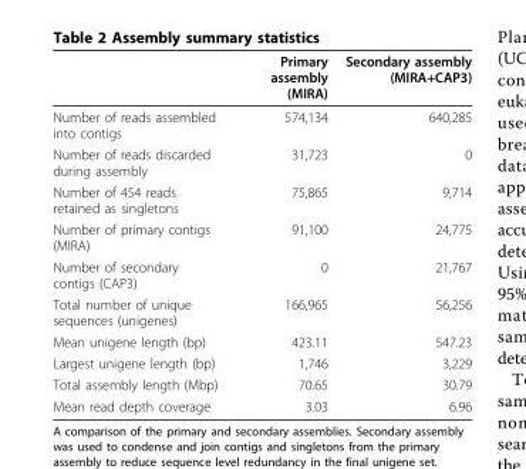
<table><thead><tr><td></td><td>Primary assembly (MIRA)</td><td>Secondary assembly (MIRA+CAP3)</td></tr></thead><tbody><tr><td>Number of reads assembled into contigs</td><td>574,134</td><td>640,285</td></tr><tr><td>Number of reads discarded during assembly</td><td>31,723</td><td>0</td></tr><tr><td>Number of 454 reads retained as singletons</td><td>75,865</td><td>9,714</td></tr><tr><td>Number of primary contigs (MIRA)</td><td>91,100</td><td>24,775</td></tr><tr><td>Number of secondary contigs (CAP3)</td><td>0</td><td>21,767</td></tr><tr><td>Total number of unique sequences (unigenes)</td><td>166,965</td><td>56,256</td></tr><tr><td>Mean unigene length (bp)</td><td>423.11</td><td>547.23</td></tr><tr><td>Largest unigene length (bp)</td><td>1,746</td><td>3,229</td></tr><tr><td>Total assembly length (Mbp)</td><td>70.65</td><td>30.79</td></tr><tr><td>Mean read depth coverage</td><td>3.03</td><td>6.96</td></tr></tbody></table>